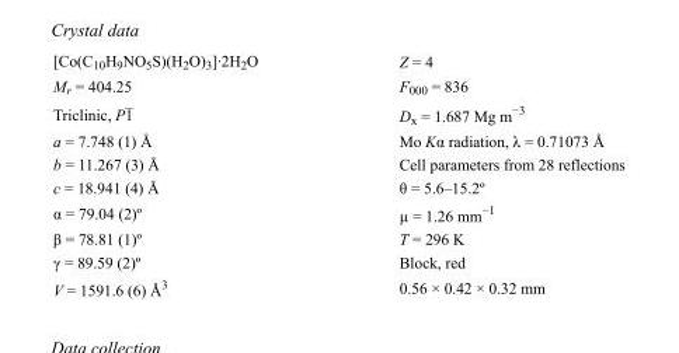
<table><tbody><tr><td>[Co(C<sub>10</sub>H<sub>9</sub>NO<sub>5</sub>S)(H<sub>2</sub>O)<sub>3</sub>]·2H<sub>2</sub>O</td><td>Z = 4</td></tr><tr><td>M<sub>r</sub> = 404.25</td><td>F000 = 836</td></tr><tr><td>Triclinic, P1</td><td>D<sub>x</sub> = 1.687 Mg m<sup>−3</sup></td></tr><tr><td>a = 7.748 (1) Å</td><td>Mo Kα radiation, λ = 0.71073 Å</td></tr><tr><td>b = 11.267 (3) Å</td><td>Cell parameters from 28 reflections</td></tr><tr><td>c = 18.941 (4) Å</td><td>θ = 5.6–15.2º</td></tr><tr><td>α = 79.04 (2)º</td><td>µ = 1.26 mm<sup>−1</sup></td></tr><tr><td>β = 78.81 (1)º</td><td>T = 296 K</td></tr><tr><td>γ = 89.59 (2)º</td><td>Block, red</td></tr><tr><td>V = 1591.6 (6) Å<sup>3</sup></td><td>0.56 × 0.42 × 0.32 mm</td></tr></tbody></table>